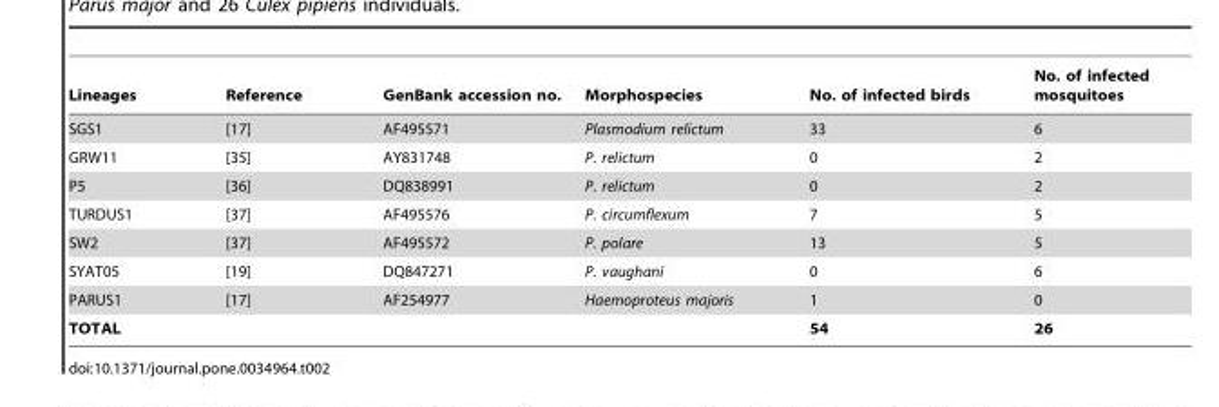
<table><thead><tr><td>Lineages</td><td>Reference</td><td>GenBank accession no.</td><td>Morphospecies</td><td>No. of infected birds</td><td>No. of infected mosquitoes</td></tr></thead><tbody><tr><td>SGS1</td><td>[17]</td><td>AF495571</td><td>Plasmodium relictum</td><td>33</td><td>6</td></tr><tr><td>GRW11</td><td>[35]</td><td>AY831748</td><td>P. relictum</td><td>0</td><td>2</td></tr><tr><td>P5</td><td>[36]</td><td>DQ838991</td><td>P. relictum</td><td>0</td><td>2</td></tr><tr><td>TURDUS1</td><td>[37]</td><td>AF495576</td><td>P. circumflexum</td><td>7</td><td>5</td></tr><tr><td>SW2</td><td>[37]</td><td>AF495572</td><td>P. polare</td><td>13</td><td>5</td></tr><tr><td>SYAT05</td><td>[19]</td><td>DQ847271</td><td>P. vaughani</td><td>0</td><td>6</td></tr><tr><td>PARUS1</td><td>[17]</td><td>AF254977</td><td>Haemoproteus majoris</td><td>1</td><td>0</td></tr><tr><td>TOTAL</td><td></td><td></td><td></td><td>54</td><td>26</td></tr></tbody></table>